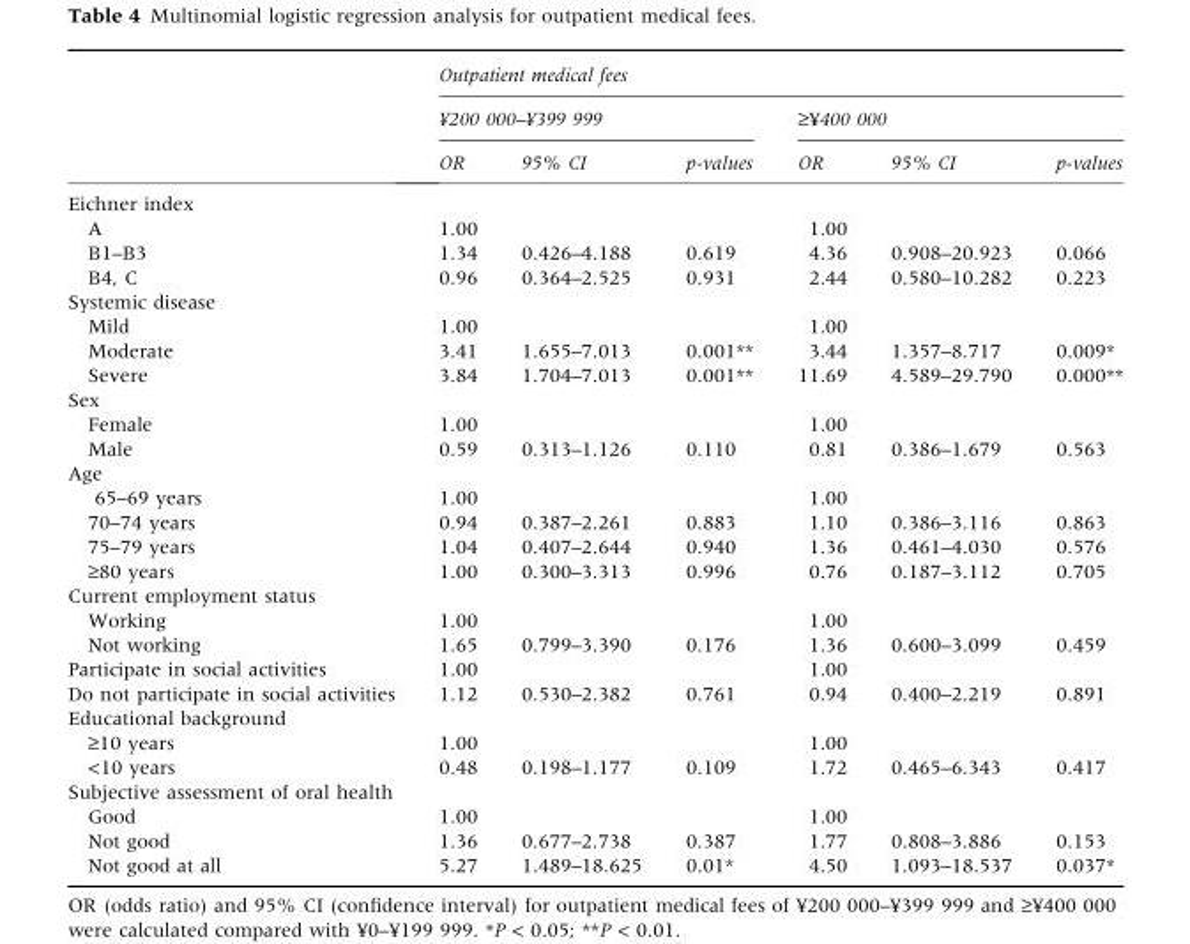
<table><thead><tr><td rowspan="3"></td><td colspan="6">Outpatient medical fees</td></tr><tr><td colspan="3">¥200 000–¥399 999</td><td colspan="3">‡¥400 000</td></tr><tr><td>OR</td><td>95% CI</td><td>p-values</td><td>OR</td><td>95% CI</td><td>p-values</td></tr></thead><tbody><tr><td colspan="7">Eichner index</td></tr><tr><td>A</td><td>1.00</td><td></td><td></td><td>1.00</td><td></td><td></td></tr><tr><td>B1–B3</td><td>1.34</td><td>0.426–4.188</td><td>0.619</td><td>4.36</td><td>0.908–20.923</td><td>0.066</td></tr><tr><td>B4, C</td><td>0.96</td><td>0.364–2.525</td><td>0.931</td><td>2.44</td><td>0.580–10.282</td><td>0.223</td></tr><tr><td colspan="7">Systemic disease</td></tr><tr><td>Mild</td><td>1.00</td><td></td><td></td><td>1.00</td><td></td><td></td></tr><tr><td>Moderate</td><td>3.41</td><td>1.655–7.013</td><td>0.001**</td><td>3.44</td><td>1.357–8.717</td><td>0.009*</td></tr><tr><td>Severe</td><td>3.84</td><td>1.704–7.013</td><td>0.001**</td><td>11.69</td><td>4.589–29.790</td><td>0.000**</td></tr><tr><td colspan="7">Sex</td></tr><tr><td>Female</td><td>1.00</td><td></td><td></td><td>1.00</td><td></td><td></td></tr><tr><td>Male</td><td>0.59</td><td>0.313–1.126</td><td>0.110</td><td>0.81</td><td>0.386–1.679</td><td>0.563</td></tr><tr><td colspan="7">Age</td></tr><tr><td>65–69 years</td><td>1.00</td><td></td><td></td><td>1.00</td><td></td><td></td></tr><tr><td>70–74 years</td><td>0.94</td><td>0.387–2.261</td><td>0.883</td><td>1.10</td><td>0.386–3.116</td><td>0.863</td></tr><tr><td>75–79 years</td><td>1.04</td><td>0.407–2.644</td><td>0.940</td><td>1.36</td><td>0.461–4.030</td><td>0.576</td></tr><tr><td>‡80 years</td><td>1.00</td><td>0.300–3.313</td><td>0.996</td><td>0.76</td><td>0.187–3.112</td><td>0.705</td></tr><tr><td colspan="7">Current employment status</td></tr><tr><td>Working</td><td>1.00</td><td></td><td></td><td>1.00</td><td></td><td></td></tr><tr><td>Not working</td><td>1.65</td><td>0.799–3.390</td><td>0.176</td><td>1.36</td><td>0.600–3.099</td><td>0.459</td></tr><tr><td>Participate in social activities</td><td>1.00</td><td></td><td></td><td>1.00</td><td></td><td></td></tr><tr><td>Do not participate in social activities</td><td>1.12</td><td>0.530–2.382</td><td>0.761</td><td>0.94</td><td>0.400–2.219</td><td>0.891</td></tr><tr><td colspan="7">Educational background</td></tr><tr><td>‡10 years</td><td>1.00</td><td></td><td></td><td>1.00</td><td></td><td></td></tr><tr><td>&lt;10 years</td><td>0.48</td><td>0.198–1.177</td><td>0.109</td><td>1.72</td><td>0.465–6.343</td><td>0.417</td></tr><tr><td colspan="7">Subjective assessment of oral health</td></tr><tr><td>Good</td><td>1.00</td><td></td><td></td><td>1.00</td><td></td><td></td></tr><tr><td>Not good</td><td>1.36</td><td>0.677–2.738</td><td>0.387</td><td>1.77</td><td>0.808–3.886</td><td>0.153</td></tr><tr><td>Not good at all</td><td>5.27</td><td>1.489–18.625</td><td>0.01*</td><td>4.50</td><td>1.093–18.537</td><td>0.037*</td></tr></tbody></table>